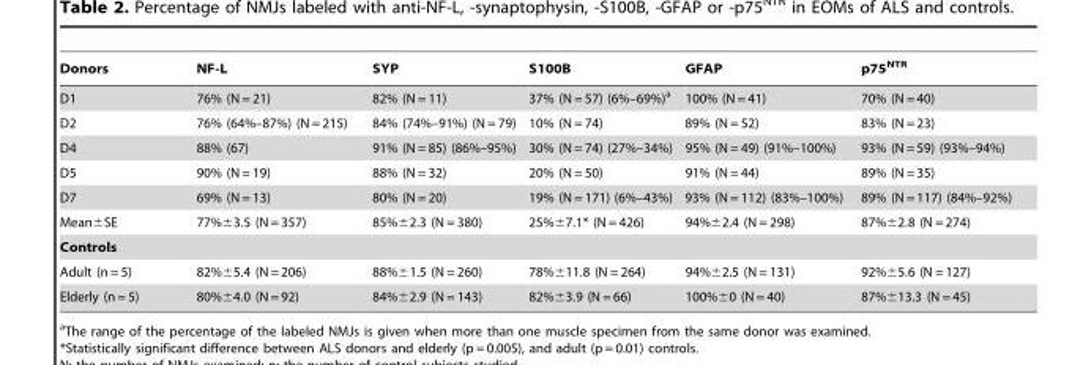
<table><thead><tr><td>Donors</td><td>NF-L</td><td>SYP</td><td>S100B</td><td>GFAP</td><td>p75<sup>NTR</sup></td></tr></thead><tbody><tr><td>D1</td><td>76% (N = 21)</td><td>82% (N = 11)</td><td>37% (N = 57) (6%–69%)<sup>a</sup></td><td>100% (N = 41)</td><td>70% (N = 40)</td></tr><tr><td>D2</td><td>76% (64%–87%) (N = 215)</td><td>84% (74%–91%) (N = 79)</td><td>10% (N = 74)</td><td>89% (N = 52)</td><td>83% (N = 23)</td></tr><tr><td>D4</td><td>88% (67)</td><td>91% (N = 85) (86%–95%)</td><td>30% (N = 74) (27%–34%)</td><td>95% (N = 49) (91%–100%)</td><td>93% (N = 59) (93%–94%)</td></tr><tr><td>D5</td><td>90% (N = 19)</td><td>88% (N = 32)</td><td>20% (N = 50)</td><td>91% (N = 44)</td><td>89% (N = 35)</td></tr><tr><td>D7</td><td>69% (N = 13)</td><td>80% (N = 20)</td><td>19% (N = 171) (6%–43%)</td><td>93% (N = 112) (83%–100%)</td><td>89% (N = 117) (84%–92%)</td></tr><tr><td>Mean±SE</td><td>77%±3.5 (N = 357)</td><td>85%±2.3 (N = 380)</td><td>25%±7.1* (N = 426)</td><td>94%±2.4 (N = 298)</td><td>87%±2.8 (N = 274)</td></tr><tr><td colspan="6">Controls</td></tr><tr><td>Adult (n = 5)</td><td>82%±5.4 (N = 206)</td><td>88%±1.5 (N = 260)</td><td>78%±11.8 (N = 264)</td><td>94%±2.5 (N = 131)</td><td>92%±5.6 (N = 127)</td></tr><tr><td>Elderly (n = 5)</td><td>80%±4.0 (N = 92)</td><td>84%±2.9 (N = 143)</td><td>82%±3.9 (N = 66)</td><td>100%±0 (N = 40)</td><td>87%±13.3 (N = 45)</td></tr></tbody></table>